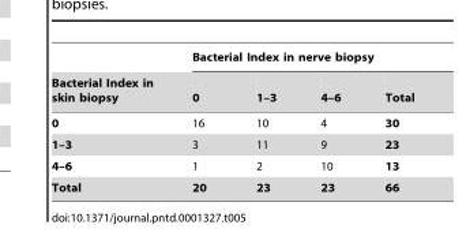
<table><thead><tr><td rowspan="2">Bacterial Index in skin biopsy</td><td colspan="4">Bacterial Index in nerve biopsy</td></tr><tr><td>0</td><td>1–3</td><td>4–6</td><td>Total</td></tr></thead><tbody><tr><td>0</td><td>16</td><td>10</td><td>4</td><td>30</td></tr><tr><td>1–3</td><td>3</td><td>11</td><td>9</td><td>23</td></tr><tr><td>4–6</td><td>1</td><td>2</td><td>10</td><td>13</td></tr><tr><td>Total</td><td>20</td><td>23</td><td>23</td><td>66</td></tr></tbody></table>